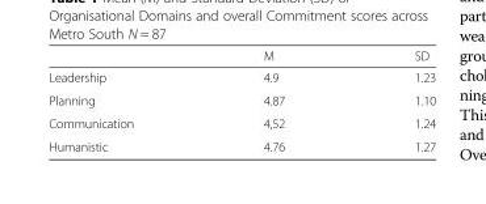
<table><thead><tr><td></td><td>M</td><td>SD</td></tr></thead><tbody><tr><td>Leadership</td><td>4.9</td><td>1.23</td></tr><tr><td>Planning</td><td>4.87</td><td>1.10</td></tr><tr><td>Communication</td><td>4,52</td><td>1.24</td></tr><tr><td>Humanistic</td><td>4.76</td><td>1.27</td></tr></tbody></table>